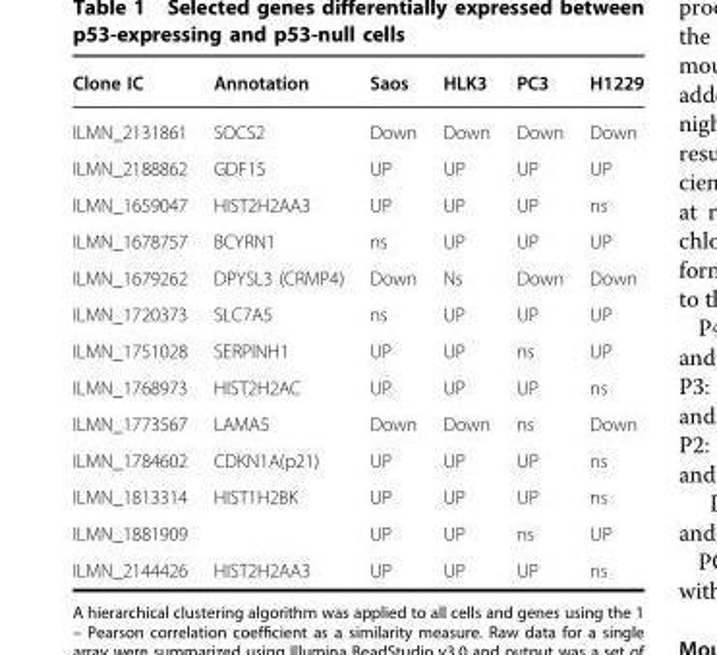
<table><thead><tr><td>Clone IC</td><td>Annotation</td><td>Saos</td><td>HLK3</td><td>PC3</td><td>H1229</td></tr></thead><tbody><tr><td>ILMN_2131861</td><td>SOCS2</td><td>Down</td><td>Down</td><td>Down</td><td>Down</td></tr><tr><td>ILMN_2188862</td><td>GDF15</td><td>UP</td><td>UP</td><td>UP</td><td>UP</td></tr><tr><td>ILMN_1659047</td><td>HIST2H2AA3</td><td>UP</td><td>UP</td><td>UP</td><td>ns</td></tr><tr><td>ILMN_1678757</td><td>BCYRN1</td><td>ns</td><td>UP</td><td>UP</td><td>UP</td></tr><tr><td>ILMN_1679262</td><td>DPYSL3 (CRMP4)</td><td>Down</td><td>Ns</td><td>Down</td><td>Down</td></tr><tr><td>ILMN_1720373</td><td>SLC7A5</td><td>ns</td><td>UP</td><td>UP</td><td>UP</td></tr><tr><td>ILMN_1751028</td><td>SERPINH1</td><td>UP</td><td>UP</td><td>ns</td><td>UP</td></tr><tr><td>ILMN_1768973</td><td>HIST2H2AC</td><td>UP</td><td>UP</td><td>UP</td><td>ns</td></tr><tr><td>ILMN_1773567</td><td>LAMA5</td><td>Down</td><td>Down</td><td>ns</td><td>Down</td></tr><tr><td>ILMN_1784602</td><td>CDKN1A(p21)</td><td>UP</td><td>UP</td><td>UP</td><td>ns</td></tr><tr><td>ILMN_1813314</td><td>HIST1H2BK</td><td>UP</td><td>UP</td><td>UP</td><td>ns</td></tr><tr><td>ILMN_1881909</td><td></td><td>UP</td><td>UP</td><td>ns</td><td>UP</td></tr><tr><td>ILMN_2144426</td><td>HIST2H2AA3</td><td>UP</td><td>UP</td><td>UP</td><td>ns</td></tr></tbody></table>